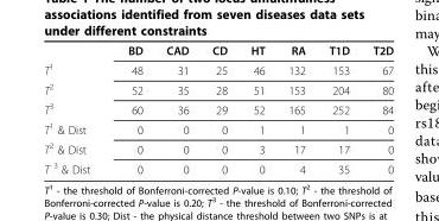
<table><thead><tr><td></td><td>BD</td><td>CAD</td><td>CD</td><td>HT</td><td>RA</td><td>T1D</td><td>T2D</td></tr></thead><tbody><tr><td>T<sup>1</sup></td><td>48</td><td>31</td><td>25</td><td>46</td><td>132</td><td>153</td><td>67</td></tr><tr><td>T<sup>2</sup></td><td>52</td><td>35</td><td>28</td><td>51</td><td>153</td><td>204</td><td>80</td></tr><tr><td>T<sup>3</sup></td><td>60</td><td>36</td><td>29</td><td>52</td><td>165</td><td>252</td><td>84</td></tr><tr><td>T<sup>1</sup> &amp; Dist</td><td>0</td><td>0</td><td>0</td><td>1</td><td>1</td><td>1</td><td>0</td></tr><tr><td>T<sup>2</sup> &amp; Dist</td><td>0</td><td>0</td><td>0</td><td>3</td><td>17</td><td>17</td><td>0</td></tr><tr><td>T <sup>3</sup> &amp; Dist</td><td>0</td><td>0</td><td>0</td><td>0</td><td>4</td><td>35</td><td>0</td></tr></tbody></table>